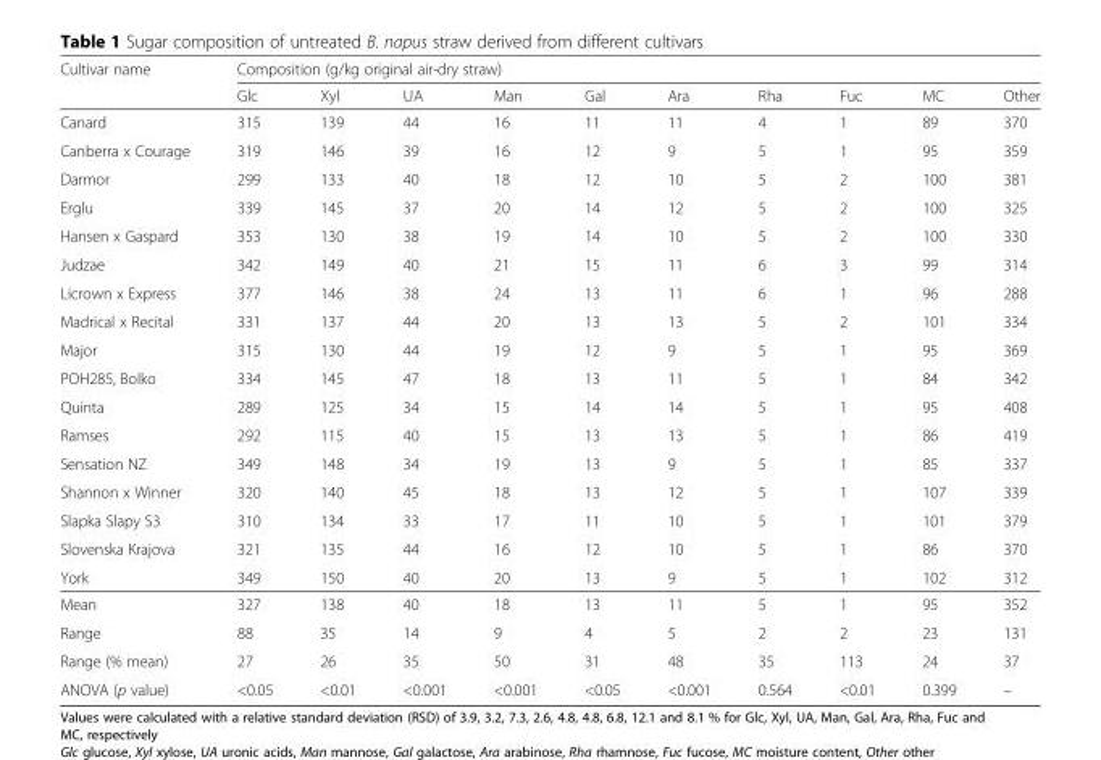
<table><thead><tr><td rowspan="2">Cultivar name</td><td colspan="10">Composition (g/kg original air-dry straw)</td></tr><tr><td>Glc</td><td>Xyl</td><td>UA</td><td>Man</td><td>Gal</td><td>Ara</td><td>Rha</td><td>Fuc</td><td>MC</td><td>Other</td></tr></thead><tbody><tr><td>Canard</td><td>315</td><td>139</td><td>44</td><td>16</td><td>11</td><td>11</td><td>4</td><td>1</td><td>89</td><td>370</td></tr><tr><td>Canberra x Courage</td><td>319</td><td>146</td><td>39</td><td>16</td><td>12</td><td>9</td><td>5</td><td>1</td><td>95</td><td>359</td></tr><tr><td>Darmor</td><td>299</td><td>133</td><td>40</td><td>18</td><td>12</td><td>10</td><td>5</td><td>2</td><td>100</td><td>381</td></tr><tr><td>Erglu</td><td>339</td><td>145</td><td>37</td><td>20</td><td>14</td><td>12</td><td>5</td><td>2</td><td>100</td><td>325</td></tr><tr><td>Hansen x Gaspard</td><td>353</td><td>130</td><td>38</td><td>19</td><td>14</td><td>10</td><td>5</td><td>2</td><td>100</td><td>330</td></tr><tr><td>Judzae</td><td>342</td><td>149</td><td>40</td><td>21</td><td>15</td><td>11</td><td>6</td><td>3</td><td>99</td><td>314</td></tr><tr><td>Licrown x Express</td><td>377</td><td>146</td><td>38</td><td>24</td><td>13</td><td>11</td><td>6</td><td>1</td><td>96</td><td>288</td></tr><tr><td>Madrical x Recital</td><td>331</td><td>137</td><td>44</td><td>20</td><td>13</td><td>13</td><td>5</td><td>2</td><td>101</td><td>334</td></tr><tr><td>Major</td><td>315</td><td>130</td><td>44</td><td>19</td><td>12</td><td>9</td><td>5</td><td>1</td><td>95</td><td>369</td></tr><tr><td>POH285, Bolko</td><td>334</td><td>145</td><td>47</td><td>18</td><td>13</td><td>11</td><td>5</td><td>1</td><td>84</td><td>342</td></tr><tr><td>Quinta</td><td>289</td><td>125</td><td>34</td><td>15</td><td>14</td><td>14</td><td>5</td><td>1</td><td>95</td><td>408</td></tr><tr><td>Ramses</td><td>292</td><td>115</td><td>40</td><td>15</td><td>13</td><td>13</td><td>5</td><td>1</td><td>86</td><td>419</td></tr><tr><td>Sensation NZ</td><td>349</td><td>148</td><td>34</td><td>19</td><td>13</td><td>9</td><td>5</td><td>1</td><td>85</td><td>337</td></tr><tr><td>Shannon x Winner</td><td>320</td><td>140</td><td>45</td><td>18</td><td>13</td><td>12</td><td>5</td><td>1</td><td>107</td><td>339</td></tr><tr><td>Slapka Slapy S3</td><td>310</td><td>134</td><td>33</td><td>17</td><td>11</td><td>10</td><td>5</td><td>1</td><td>101</td><td>379</td></tr><tr><td>Slovenska Krajova</td><td>321</td><td>135</td><td>44</td><td>16</td><td>12</td><td>10</td><td>5</td><td>1</td><td>86</td><td>370</td></tr><tr><td>York</td><td>349</td><td>150</td><td>40</td><td>20</td><td>13</td><td>9</td><td>5</td><td>1</td><td>102</td><td>312</td></tr><tr><td>Mean</td><td>327</td><td>138</td><td>40</td><td>18</td><td>13</td><td>11</td><td>5</td><td>1</td><td>95</td><td>352</td></tr><tr><td>Range</td><td>88</td><td>35</td><td>14</td><td>9</td><td>4</td><td>5</td><td>2</td><td>2</td><td>23</td><td>131</td></tr><tr><td>Range (% mean)</td><td>27</td><td>26</td><td>35</td><td>50</td><td>31</td><td>48</td><td>35</td><td>113</td><td>24</td><td>37</td></tr><tr><td>ANOVA (p value)</td><td>&lt;0.05</td><td>&lt;0.01</td><td>&lt;0.001</td><td>&lt;0.001</td><td>&lt;0.05</td><td>&lt;0.001</td><td>0.564</td><td>&lt;0.01</td><td>0.399</td><td>–</td></tr></tbody></table>